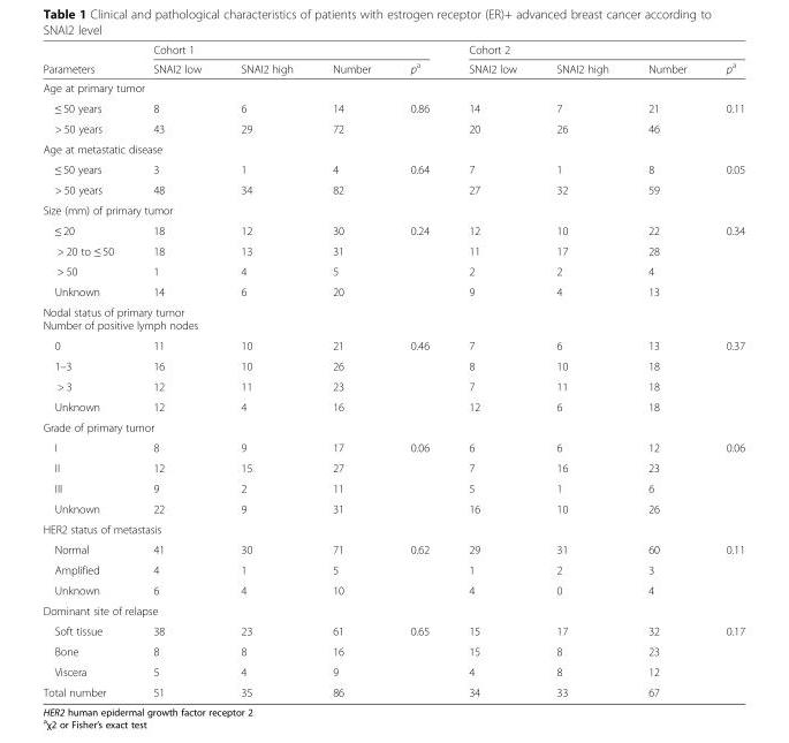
<table><thead><tr><td rowspan="2">Parameters</td><td colspan="4">Cohort 1</td><td colspan="4">Cohort 2</td></tr><tr><td>SNAI2 low</td><td>SNAI2 high</td><td>Number</td><td>p<sup>a</sup></td><td>SNAI2 low</td><td>SNAI2 high</td><td>Number</td><td>p<sup>a</sup></td></tr></thead><tbody><tr><td colspan="9">Age at primary tumor</td></tr><tr><td>≤ 50 years</td><td>8</td><td>6</td><td>14</td><td rowspan="2">0.86</td><td>14</td><td>7</td><td>21</td><td rowspan="2">0.11</td></tr><tr><td>&gt; 50 years</td><td>43</td><td>29</td><td>72</td><td>20</td><td>26</td><td>46</td></tr><tr><td colspan="9">Age at metastatic disease</td></tr><tr><td>≤ 50 years</td><td>3</td><td>1</td><td>4</td><td rowspan="2">0.64</td><td>7</td><td>1</td><td>8</td><td rowspan="2">0.05</td></tr><tr><td>&gt; 50 years</td><td>48</td><td>34</td><td>82</td><td>27</td><td>32</td><td>59</td></tr><tr><td colspan="9">Size (mm) of primary tumor</td></tr><tr><td>≤ 20</td><td>18</td><td>12</td><td>30</td><td rowspan="4">0.24</td><td>12</td><td>10</td><td>22</td><td rowspan="4">0.34</td></tr><tr><td>&gt; 20 to ≤ 50</td><td>18</td><td>13</td><td>31</td><td>11</td><td>17</td><td>28</td></tr><tr><td>&gt; 50</td><td>1</td><td>4</td><td>5</td><td>2</td><td>2</td><td>4</td></tr><tr><td>Unknown</td><td>14</td><td>6</td><td>20</td><td>9</td><td>4</td><td>13</td></tr><tr><td colspan="9">Nodal status of primary tumor Number of positive lymph nodes</td></tr><tr><td>0</td><td>11</td><td>10</td><td>21</td><td rowspan="4">0.46</td><td>7</td><td>6</td><td>13</td><td rowspan="4">0.37</td></tr><tr><td>1–3</td><td>16</td><td>10</td><td>26</td><td>8</td><td>10</td><td>18</td></tr><tr><td>&gt; 3</td><td>12</td><td>11</td><td>23</td><td>7</td><td>11</td><td>18</td></tr><tr><td>Unknown</td><td>12</td><td>4</td><td>16</td><td>12</td><td>6</td><td>18</td></tr><tr><td colspan="9">Grade of primary tumor</td></tr><tr><td>I</td><td>8</td><td>9</td><td>17</td><td rowspan="4">0.06</td><td>6</td><td>6</td><td>12</td><td rowspan="4">0.06</td></tr><tr><td>II</td><td>12</td><td>15</td><td>27</td><td>7</td><td>16</td><td>23</td></tr><tr><td>III</td><td>9</td><td>2</td><td>11</td><td>5</td><td>1</td><td>6</td></tr><tr><td>Unknown</td><td>22</td><td>9</td><td>31</td><td>16</td><td>10</td><td>26</td></tr><tr><td colspan="9">HER2 status of metastasis</td></tr><tr><td>Normal</td><td>41</td><td>30</td><td>71</td><td rowspan="3">0.62</td><td>29</td><td>31</td><td>60</td><td rowspan="3">0.11</td></tr><tr><td>Amplified</td><td>4</td><td>1</td><td>5</td><td>1</td><td>2</td><td>3</td></tr><tr><td>Unknown</td><td>6</td><td>4</td><td>10</td><td>4</td><td>0</td><td>4</td></tr><tr><td colspan="9">Dominant site of relapse</td></tr><tr><td>Soft tissue</td><td>38</td><td>23</td><td>61</td><td rowspan="3">0.65</td><td>15</td><td>17</td><td>32</td><td rowspan="3">0.17</td></tr><tr><td>Bone</td><td>8</td><td>8</td><td>16</td><td>15</td><td>8</td><td>23</td></tr><tr><td>Viscera</td><td>5</td><td>4</td><td>9</td><td>4</td><td>8</td><td>12</td></tr><tr><td>Total number</td><td>51</td><td>35</td><td>86</td><td></td><td>34</td><td>33</td><td>67</td><td></td></tr></tbody></table>